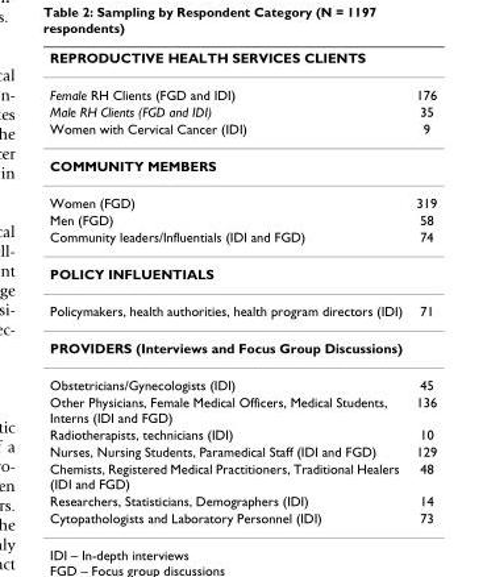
<table><thead><tr><td colspan="2">REPRODUCTIVE HEALTH SERVICES CLIENTS</td></tr><tr><td>Female RH Clients (FGD and IDI)</td><td>176</td></tr></thead><tbody><tr><td>Male RH Clients (FGD and IDI)</td><td>35</td></tr><tr><td>Women with Cervical Cancer (IDI)</td><td>9</td></tr><tr><td colspan="2">COMMUNITY MEMBERS</td></tr><tr><td>Women (FGD)</td><td>319</td></tr><tr><td>Men (FGD)</td><td>58</td></tr><tr><td>Community leaders/Influentials (IDI and FGD)</td><td>74</td></tr><tr><td colspan="2">POLICY INFLUENTIALS</td></tr><tr><td>Policymakers, health authorities, health program directors (IDI)</td><td>71</td></tr><tr><td colspan="2">PROVIDERS (Interviews and Focus Group Discussions)</td></tr><tr><td>Obstetricians/Gynecologists (IDI)</td><td>45</td></tr><tr><td>Other Physicians, Female Medical Officers, Medical Students, Interns (IDI and FGD)</td><td>136</td></tr><tr><td>Radiotherapists, technicians (IDI)</td><td>10</td></tr><tr><td>Nurses, Nursing Students, Paramedical Staff (IDI and FGD)</td><td>129</td></tr><tr><td>Chemists, Registered Medical Practitioners, Traditional Healers (IDI and FGD)</td><td>48</td></tr><tr><td>Researchers, Statisticians, Demographers (IDI)</td><td>14</td></tr><tr><td>Cytopathologists and Laboratory Personnel (IDI)</td><td>73</td></tr></tbody></table>